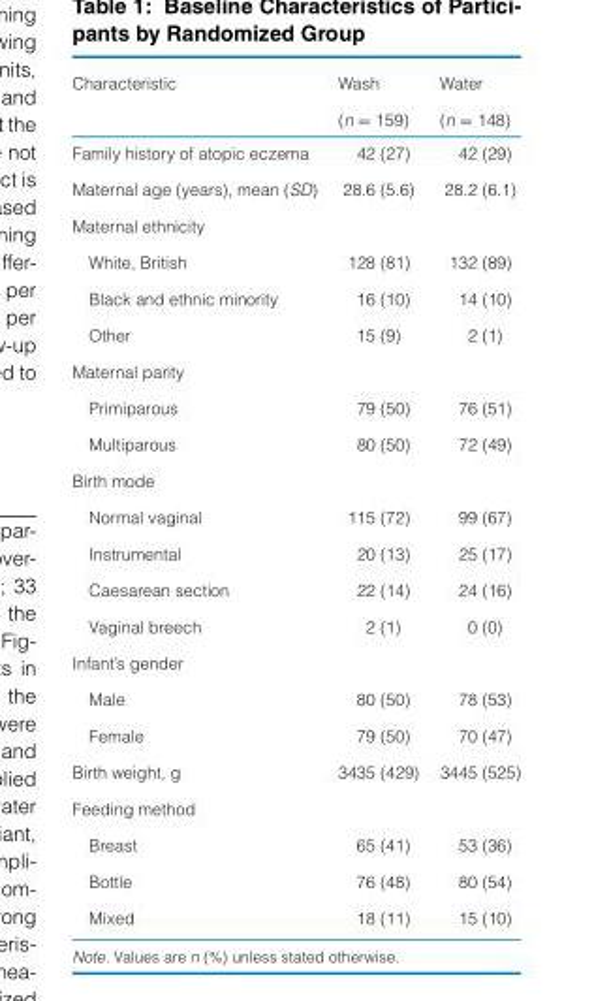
<table><thead><tr><td rowspan="2">Characteristic</td><td rowspan="2">Wash (n = 159)</td><td rowspan="2">Water (n = 148)</td></tr><tr></tr></thead><tbody><tr><td>Family history of atopic eczema</td><td>42 (27)</td><td>42 (29)</td></tr><tr><td>Maternal age (years), mean (SD)</td><td>28.6 (5.6)</td><td>28.2 (6.1)</td></tr><tr><td colspan="3">Maternal ethnicity</td></tr><tr><td>White, British</td><td>128 (81)</td><td>132 (89)</td></tr><tr><td>Black and ethnic minority</td><td>16 (10)</td><td>14 (10)</td></tr><tr><td>Other</td><td>15 (9)</td><td>2 (1)</td></tr><tr><td colspan="3">Maternal parity</td></tr><tr><td>Primiparous</td><td>79 (50)</td><td>76 (51)</td></tr><tr><td>Multiparous</td><td>80 (50)</td><td>72 (49)</td></tr><tr><td colspan="3">Birth mode</td></tr><tr><td>Normal vaginal</td><td>115 (72)</td><td>99 (67)</td></tr><tr><td>Instrumental</td><td>20 (13)</td><td>25 (17)</td></tr><tr><td>Caesarean section</td><td>22 (14)</td><td>24 (16)</td></tr><tr><td>Vaginal breech</td><td>2 (1)</td><td>0 (0)</td></tr><tr><td colspan="3">Infant’s gender</td></tr><tr><td>Male</td><td>80 (50)</td><td>78 (53)</td></tr><tr><td>Female</td><td>79 (50)</td><td>70 (47)</td></tr><tr><td>Birth weight, g</td><td>3435 (429)</td><td>3445 (525)</td></tr><tr><td colspan="3">Feeding method</td></tr><tr><td>Breast</td><td>65 (41)</td><td>53 (36)</td></tr><tr><td>Bottle</td><td>76 (48)</td><td>80 (54)</td></tr><tr><td>Mixed</td><td>18 (11)</td><td>15 (10)</td></tr></tbody></table>